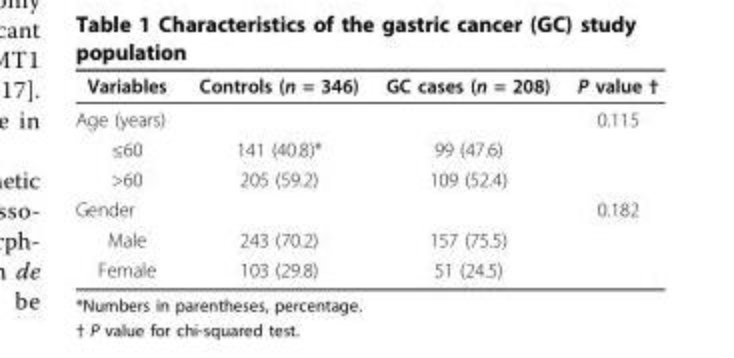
<table><thead><tr><td>Variables</td><td>Controls (n = 346)</td><td>GC cases (n = 208)</td><td>P value †</td></tr></thead><tbody><tr><td>Age (years)</td><td></td><td></td><td>0.115</td></tr><tr><td>≤60</td><td>141 (40.8)*</td><td>99 (47.6)</td><td></td></tr><tr><td>&gt;60</td><td>205 (59.2)</td><td>109 (52.4)</td><td></td></tr><tr><td>Gender</td><td></td><td></td><td>0.182</td></tr><tr><td>Male</td><td>243 (70.2)</td><td>157 (75.5)</td><td></td></tr><tr><td>Female</td><td>103 (29.8)</td><td>51 (24.5)</td><td></td></tr></tbody></table>